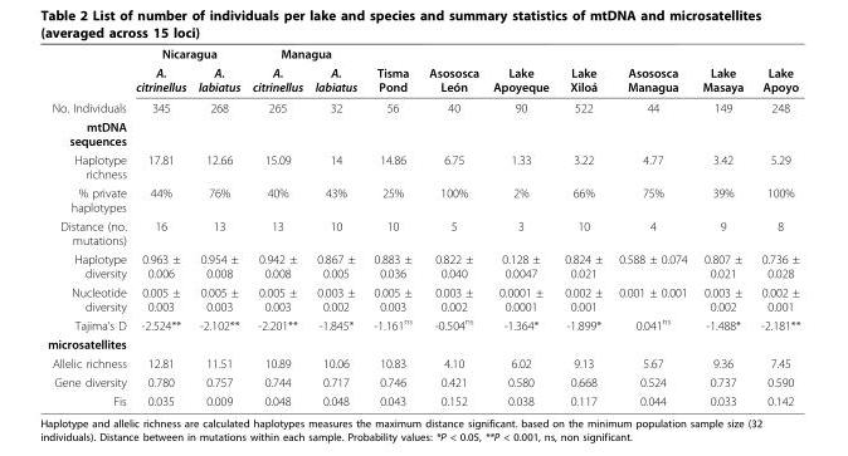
<table><thead><tr><td rowspan="2"></td><td colspan="2">Nicaragua</td><td colspan="2">Managua</td><td rowspan="2">Tisma Pond</td><td rowspan="2">Asososca León</td><td rowspan="2">Lake Apoyeque</td><td rowspan="2">Lake Xiloá</td><td rowspan="2">Asososca Managua</td><td rowspan="2">Lake Masaya</td><td rowspan="2">Lake Apoyo</td></tr><tr><td>A. citrinellus</td><td>A. labiatus</td><td>A. citrinellus</td><td>A. labiatus</td></tr></thead><tbody><tr><td>No. Individuals</td><td>345</td><td>268</td><td>265</td><td>32</td><td>56</td><td>40</td><td>90</td><td>522</td><td>44</td><td>149</td><td>248</td></tr><tr><td colspan="12">mtDNA sequences</td></tr><tr><td>Haplotype richness</td><td>17.81</td><td>12.66</td><td>15.09</td><td>14</td><td>14.86</td><td>6.75</td><td>1.33</td><td>3.22</td><td>4.77</td><td>3.42</td><td>5.29</td></tr><tr><td>% private haplotypes</td><td>44%</td><td>76%</td><td>40%</td><td>43%</td><td>25%</td><td>100%</td><td>2%</td><td>66%</td><td>75%</td><td>39%</td><td>100%</td></tr><tr><td>Distance (no. mutations)</td><td>16</td><td>13</td><td>13</td><td>10</td><td>10</td><td>5</td><td>3</td><td>10</td><td>4</td><td>9</td><td>8</td></tr><tr><td>Haplotype diversity</td><td>0.963 ± 0.006</td><td>0.954 ± 0.008</td><td>0.942 ± 0.008</td><td>0.867 ± 0.005</td><td>0.883 ± 0.036</td><td>0.822 ± 0.040</td><td>0.128 ± 0.0047</td><td>0.824 ± 0.021</td><td>0.588 ± 0.074</td><td>0.807 ± 0.021</td><td>0.736 ± 0.028</td></tr><tr><td>Nucleotide diversity</td><td>0.005 ± 0.003</td><td>0.005 ± 0.003</td><td>0.005 ± 0.003</td><td>0.003 ± 0.002</td><td>0.005 ± 0.003</td><td>0.003 ± 0.002</td><td>0.0001 ± 0.0001</td><td>0.002 ± 0.001</td><td>0.001 ± 0.001</td><td>0.003 ± 0.002</td><td>0.002 ± 0.001</td></tr><tr><td>Tajima’s D</td><td>-2.524**</td><td>-2.102**</td><td>-2.201**</td><td>-1.845*</td><td>-1.161<sup>ns</sup></td><td>-0.504<sup>ns</sup></td><td>-1.364*</td><td>-1.899*</td><td>0.041<sup>ns</sup></td><td>-1.488*</td><td>-2.181**</td></tr><tr><td colspan="12">microsatellites</td></tr><tr><td>Allelic richness</td><td>12.81</td><td>11.51</td><td>10.89</td><td>10.06</td><td>10.83</td><td>4.10</td><td>6.02</td><td>9.13</td><td>5.67</td><td>9.36</td><td>7.45</td></tr><tr><td>Gene diversity</td><td>0.780</td><td>0.757</td><td>0.744</td><td>0.717</td><td>0.746</td><td>0.421</td><td>0.580</td><td>0.668</td><td>0.524</td><td>0.737</td><td>0.590</td></tr><tr><td>Fis</td><td>0.035</td><td>0.009</td><td>0.048</td><td>0.048</td><td>0.043</td><td>0.152</td><td>0.038</td><td>0.117</td><td>0.044</td><td>0.033</td><td>0.142</td></tr></tbody></table>